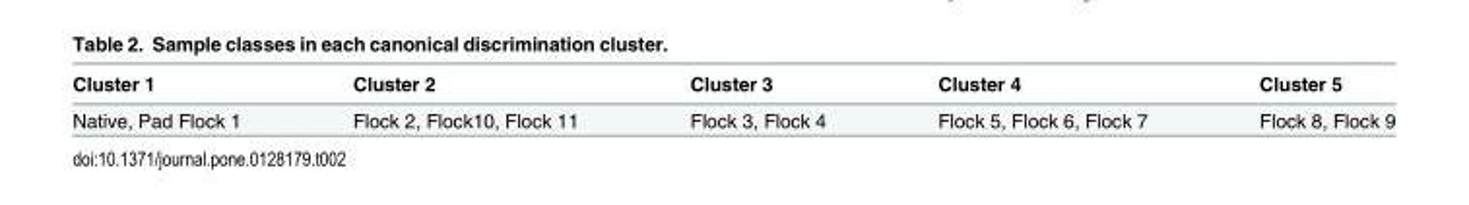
<table><thead><tr><td>Cluster 1</td><td>Cluster 2</td><td>Cluster 3</td><td>Cluster 4</td><td>Cluster 5</td></tr></thead><tbody><tr><td>Native, Pad Flock 1</td><td>Flock 2, Flock10, Flock 11</td><td>Flock 3, Flock 4</td><td>Flock 5, Flock 6, Flock 7</td><td>Flock 8, Flock 9</td></tr></tbody></table>